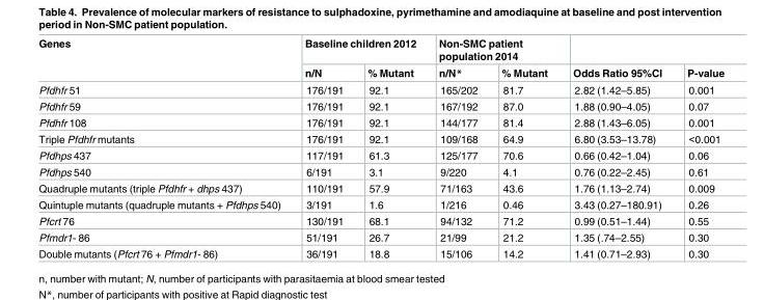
<table><thead><tr><td rowspan="2">Genes</td><td colspan="2">Baseline children 2012</td><td colspan="2">Non-SMC patient population 2014</td><td rowspan="2">Odds Ratio 95%CI</td><td rowspan="2">P-value</td></tr><tr><td>n/N</td><td>% Mutant</td><td>n/N*</td><td>% Mutant</td></tr></thead><tbody><tr><td>Pfdhfr 51</td><td>176/191</td><td>92.1</td><td>165/202</td><td>81.7</td><td>2.82 (1.42–5.85)</td><td>0.001</td></tr><tr><td>Pfdhfr 59</td><td>176/191</td><td>92.1</td><td>167/192</td><td>87.0</td><td>1.88 (0.90–4.05)</td><td>0.07</td></tr><tr><td>Pfdhfr 108</td><td>176/191</td><td>92.1</td><td>144/177</td><td>81.4</td><td>2.88 (1.43–6.05)</td><td>0.001</td></tr><tr><td>Triple Pfdhfr mutants</td><td>176/191</td><td>92.1</td><td>109/168</td><td>64.9</td><td>6.80 (3.53–13.78)</td><td>&lt;0.001</td></tr><tr><td>Pfdhps 437</td><td>117/191</td><td>61.3</td><td>125/177</td><td>70.6</td><td>0.66 (0.42–1.04)</td><td>0.06</td></tr><tr><td>Pfdhps 540</td><td>6/191</td><td>3.1</td><td>9/220</td><td>4.1</td><td>0.76 (0.22–2.45)</td><td>0.61</td></tr><tr><td>Quadruple mutants (triple Pfdhfr + dhps 437)</td><td>110/191</td><td>57.9</td><td>71/163</td><td>43.6</td><td>1.76 (1.13–2.74)</td><td>0.009</td></tr><tr><td>Quintuple mutants (quadruple mutants + Pfdhps 540)</td><td>3/191</td><td>1.6</td><td>1/216</td><td>0.46</td><td>3.43 (0.27–180.91)</td><td>0.26</td></tr><tr><td>Pfcrt 76</td><td>130/191</td><td>68.1</td><td>94/132</td><td>71.2</td><td>0.99 (0.51–1.44)</td><td>0.55</td></tr><tr><td>Pfmdr1- 86</td><td>51/191</td><td>26.7</td><td>21/99</td><td>21.2</td><td>1.35 (.74–2.55)</td><td>0.30</td></tr><tr><td>Double mutants (Pfcrt 76 + Pfmdr1- 86)</td><td>36/191</td><td>18.8</td><td>15/106</td><td>14.2</td><td>1.41 (0.71–2.93)</td><td>0.30</td></tr></tbody></table>